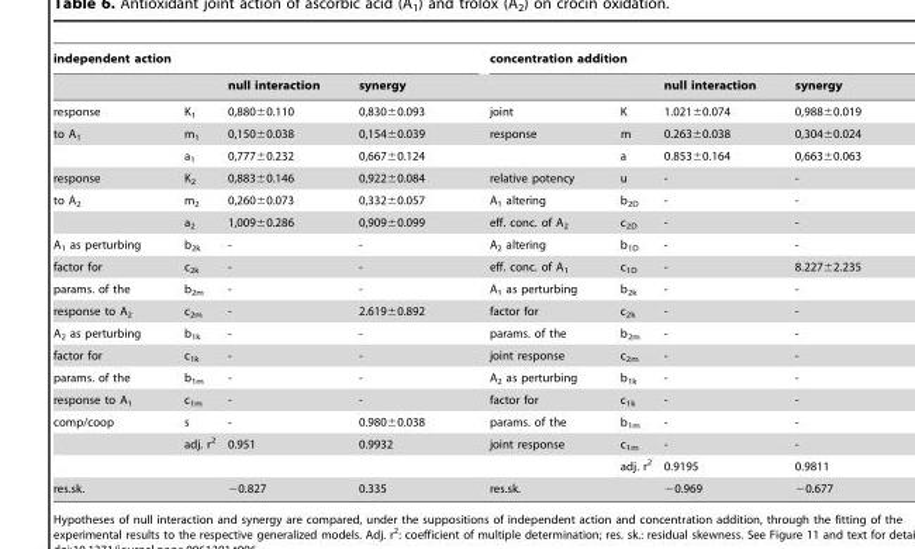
<table><thead><tr><td colspan="4">independent action</td><td colspan="4">concentration addition</td></tr><tr><td></td><td></td><td>null interaction</td><td>synergy</td><td></td><td></td><td>null interaction</td><td>synergy</td></tr></thead><tbody><tr><td>response</td><td>K<sub>1</sub></td><td>0,880±0.110</td><td>0,830±0.093</td><td>joint</td><td>K</td><td>1.021±0.074</td><td>0,988±0.019</td></tr><tr><td rowspan="2">to A<sub>1</sub></td><td>m<sub>1</sub></td><td>0,150±0.038</td><td>0,154±0.039</td><td>response</td><td>m</td><td>0.263±0.038</td><td>0,304±0.024</td></tr><tr><td>a<sub>1</sub></td><td>0,777±0.232</td><td>0,667±0.124</td><td></td><td>a</td><td>0.853±0.164</td><td>0,663±0.063</td></tr><tr><td>response</td><td>K<sub>2</sub></td><td>0,883±0.146</td><td>0,922±0.084</td><td>relative potency</td><td>u</td><td>-</td><td>-</td></tr><tr><td rowspan="2">to A<sub>2</sub></td><td>m<sub>2</sub></td><td>0,260±0.073</td><td>0,332±0.057</td><td>A<sub>1</sub> altering</td><td>b<sub>2D</sub></td><td>-</td><td>-</td></tr><tr><td>a<sub>2</sub></td><td>1,009±0.286</td><td>0,909±0.099</td><td>eff. conc. of A<sub>2</sub></td><td>c<sub>2D</sub></td><td>-</td><td>-</td></tr><tr><td>A<sub>1</sub> as perturbing</td><td>b<sub>2k</sub></td><td>-</td><td>-</td><td>A<sub>2</sub> altering</td><td>b<sub>1D</sub></td><td>-</td><td>-</td></tr><tr><td>factor for</td><td>c<sub>2k</sub></td><td>-</td><td>-</td><td>eff. conc. of A<sub>1</sub></td><td>c<sub>1D</sub></td><td>-</td><td>8.227±2.235</td></tr><tr><td>params. of the</td><td>b<sub>2m</sub></td><td>-</td><td>-</td><td>A<sub>1</sub> as perturbing</td><td>b<sub>2k</sub></td><td>-</td><td>-</td></tr><tr><td>response to A<sub>2</sub></td><td>c<sub>2m</sub></td><td>-</td><td>2.619±0.892</td><td>factor for</td><td>c<sub>2k</sub></td><td>-</td><td>-</td></tr><tr><td>A<sub>2</sub> as perturbing</td><td>b<sub>1k</sub></td><td>-</td><td>-</td><td>params. of the</td><td>b<sub>2m</sub></td><td>-</td><td>-</td></tr><tr><td>factor for</td><td>c<sub>1k</sub></td><td>-</td><td>-</td><td>joint response</td><td>c<sub>2m</sub></td><td>-</td><td>-</td></tr><tr><td>params. of the</td><td>b<sub>1m</sub></td><td>-</td><td>-</td><td>A<sub>2</sub> as perturbing</td><td>b<sub>1k</sub></td><td>-</td><td>-</td></tr><tr><td>response to A<sub>1</sub></td><td>c<sub>1m</sub></td><td>-</td><td>-</td><td>factor for</td><td>c<sub>1k</sub></td><td>-</td><td>-</td></tr><tr><td rowspan="3">comp/coop</td><td>s</td><td>-</td><td>0.980±0.038</td><td>params. of the</td><td>b<sub>1m</sub></td><td>-</td><td>-</td></tr><tr><td>adj. r<sup>2</sup></td><td>0.951</td><td>0.9932</td><td>joint response</td><td>c<sub>1m</sub></td><td>-</td><td>-</td></tr><tr><td></td><td></td><td></td><td></td><td>adj. r<sup>2</sup></td><td>0.9195</td><td>0.9811</td></tr><tr><td colspan="2">res.sk.</td><td>−0.827</td><td>0.335</td><td colspan="2">res.sk.</td><td>−0.969</td><td>−0.677</td></tr></tbody></table>